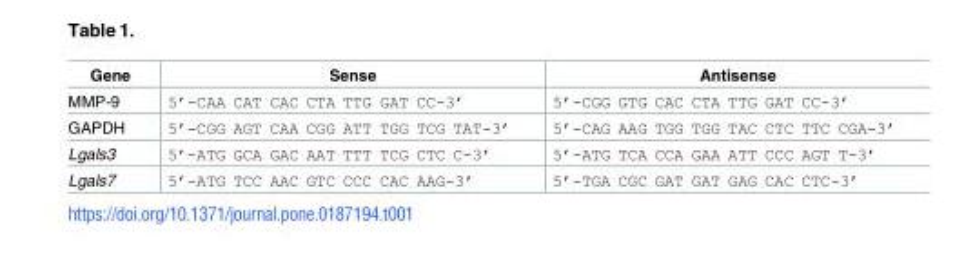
<table><thead><tr><td>Gene</td><td>Sense</td><td>Antisense</td></tr></thead><tbody><tr><td>MMP-9</td><td>5’-CAA CAT CAC CTA TTG GAT CC-3’</td><td>5’-CGG GTG CAC CTA TTG GAT CC-3’</td></tr><tr><td>GAPDH</td><td>5’-CGG AGT CAA CGG ATT TGG TCG TAT-3’</td><td>5’-CAG AAG TGG TGG TAC CTC TTC CGA-3’</td></tr><tr><td>Lgals3</td><td>5’-ATG GCA GAC AAT TTT TCG CTC C-3’</td><td>5’-ATG TCA CCA GAA ATT CCC AGT T-3’</td></tr><tr><td>Lgals7</td><td>5’-ATG TCC AAC GTC CCC CAC AAG-3’</td><td>5’-TGA CGC GAT GAT GAG CAC CTC-3’</td></tr></tbody></table>